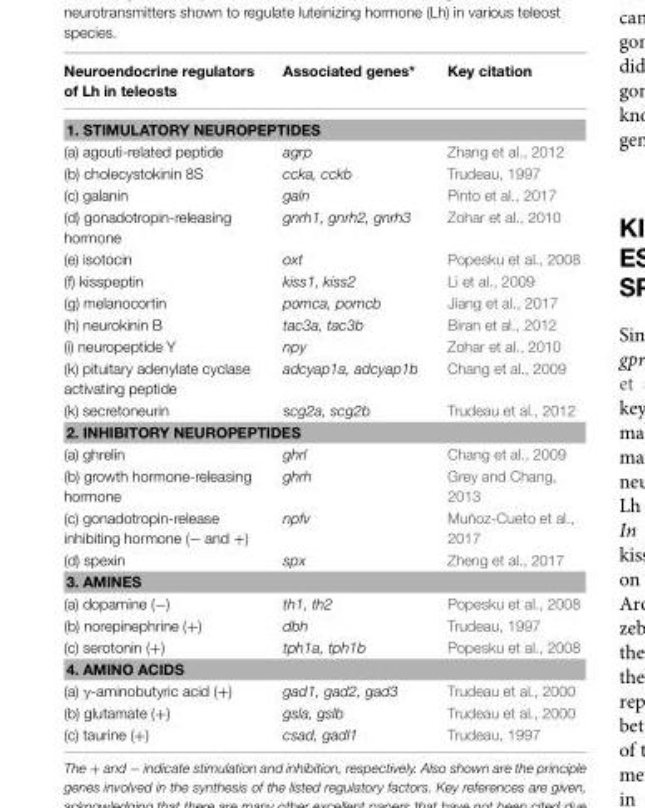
<table><thead><tr><td>Neuroendocrine regulators of Lh in teleosts</td><td>Associated genes*</td><td>Key citation</td></tr></thead><tbody><tr><td colspan="3">1. STIMULATORY NEUROPEPTIDES</td></tr><tr><td>(a) agouti-related peptide</td><td>agrp</td><td>Zhang et al., 2012</td></tr><tr><td>(b) cholecystokinin 8S</td><td>ccka, cckb</td><td>Trudeau, 1997</td></tr><tr><td>(c) galanin</td><td>galn</td><td>Pinto et al., 2017</td></tr><tr><td>(d) gonadotropin-releasing hormone</td><td>gnrh1, gnrh2, gnrh3</td><td>Zohar et al., 2010</td></tr><tr><td>(e) isotocin</td><td>oxt</td><td>Popesku et al., 2008</td></tr><tr><td>(f) kisspeptin</td><td>kiss1, kiss2</td><td>Li et al., 2009</td></tr><tr><td>(g) melanocortin</td><td>pomca, pomcb</td><td>Jiang et al., 2017</td></tr><tr><td>(h) neurokinin B</td><td>tac3a, tac3b</td><td>Biran et al., 2012</td></tr><tr><td>(i) neuropeptide Y</td><td>npy</td><td>Zohar et al., 2010</td></tr><tr><td>(k) pituitary adenylate cyclase activating peptide</td><td>adcyap1a, adcyap1b</td><td>Chang et al., 2009</td></tr><tr><td>(k) secretoneurin</td><td>scg2a, scg2b</td><td>Trudeau et al., 2012</td></tr><tr><td colspan="3">2. INHIBITORY NEUROPEPTIDES</td></tr><tr><td>(a) ghrelin</td><td>ghrl</td><td>Chang et al., 2009</td></tr><tr><td>(b) growth hormone-releasing hormone</td><td>ghrh</td><td>Grey and Chang, 2013</td></tr><tr><td>(c) gonadotropin-release inhibiting hormone (− and +)</td><td>npfv</td><td>Muñoz-Cueto et al., 2017</td></tr><tr><td>(d) spexin</td><td>spx</td><td>Zheng et al., 2017</td></tr><tr><td colspan="3">3. AMINES</td></tr><tr><td>(a) dopamine (−)</td><td>th1, th2</td><td>Popesku et al., 2008</td></tr><tr><td>(b) norepinephrine (+)</td><td>dbh</td><td>Trudeau, 1997</td></tr><tr><td>(c) serotonin (+)</td><td>tph1a, tph1b</td><td>Popesku et al., 2008</td></tr><tr><td colspan="3">4. AMINO ACIDS</td></tr><tr><td>(a) γ-aminobutyric acid (+)</td><td>gad1, gad2, gad3</td><td>Trudeau et al., 2000</td></tr><tr><td>(b) glutamate (+)</td><td>gsla, gslb</td><td>Trudeau et al., 2000</td></tr><tr><td>(c) taurine (+)</td><td>csad, gadl1</td><td>Trudeau, 1997</td></tr></tbody></table>